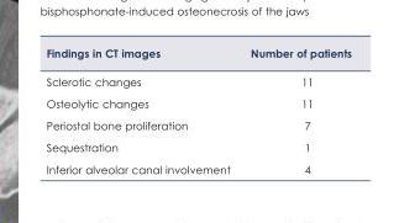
<table><thead><tr><td>Findings in CT images</td><td>Number of patients</td></tr></thead><tbody><tr><td>Sclerotic changes</td><td>11</td></tr><tr><td>Osteolytic changes</td><td>11</td></tr><tr><td>Periostal bone proliferation</td><td>7</td></tr><tr><td>Sequestration</td><td>1</td></tr><tr><td>Inferior alveolar canal involvement</td><td>4</td></tr></tbody></table>